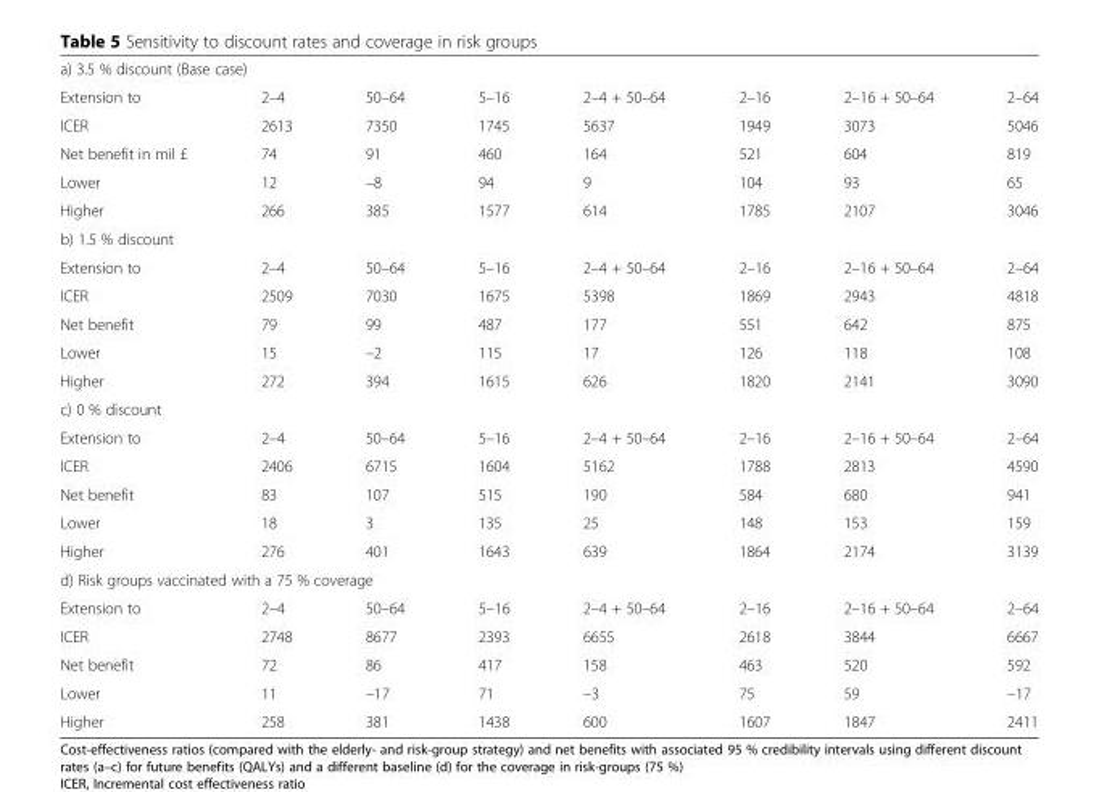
<table><tbody><tr><td colspan="8">a) 3.5 % discount (Base case)</td></tr><tr><td>Extension to</td><td>2–4</td><td>50–64</td><td>5–16</td><td>2–4 + 50–64</td><td>2–16</td><td>2–16 + 50–64</td><td>2–64</td></tr><tr><td>ICER</td><td>2613</td><td>7350</td><td>1745</td><td>5637</td><td>1949</td><td>3073</td><td>5046</td></tr><tr><td>Net benefit in mil £</td><td>74</td><td>91</td><td>460</td><td>164</td><td>521</td><td>604</td><td>819</td></tr><tr><td>Lower</td><td>12</td><td>–8</td><td>94</td><td>9</td><td>104</td><td>93</td><td>65</td></tr><tr><td>Higher</td><td>266</td><td>385</td><td>1577</td><td>614</td><td>1785</td><td>2107</td><td>3046</td></tr><tr><td colspan="8">b) 1.5 % discount</td></tr><tr><td>Extension to</td><td>2–4</td><td>50–64</td><td>5–16</td><td>2–4 + 50–64</td><td>2–16</td><td>2–16 + 50–64</td><td>2–64</td></tr><tr><td>ICER</td><td>2509</td><td>7030</td><td>1675</td><td>5398</td><td>1869</td><td>2943</td><td>4818</td></tr><tr><td>Net benefit</td><td>79</td><td>99</td><td>487</td><td>177</td><td>551</td><td>642</td><td>875</td></tr><tr><td>Lower</td><td>15</td><td>–2</td><td>115</td><td>17</td><td>126</td><td>118</td><td>108</td></tr><tr><td>Higher</td><td>272</td><td>394</td><td>1615</td><td>626</td><td>1820</td><td>2141</td><td>3090</td></tr><tr><td colspan="8">c) 0 % discount</td></tr><tr><td>Extension to</td><td>2–4</td><td>50–64</td><td>5–16</td><td>2–4 + 50–64</td><td>2–16</td><td>2–16 + 50–64</td><td>2–64</td></tr><tr><td>ICER</td><td>2406</td><td>6715</td><td>1604</td><td>5162</td><td>1788</td><td>2813</td><td>4590</td></tr><tr><td>Net benefit</td><td>83</td><td>107</td><td>515</td><td>190</td><td>584</td><td>680</td><td>941</td></tr><tr><td>Lower</td><td>18</td><td>3</td><td>135</td><td>25</td><td>148</td><td>153</td><td>159</td></tr><tr><td>Higher</td><td>276</td><td>401</td><td>1643</td><td>639</td><td>1864</td><td>2174</td><td>3139</td></tr><tr><td colspan="8">d) Risk groups vaccinated with a 75 % coverage</td></tr><tr><td>Extension to</td><td>2–4</td><td>50–64</td><td>5–16</td><td>2–4 + 50–64</td><td>2–16</td><td>2–16 + 50–64</td><td>2–64</td></tr><tr><td>ICER</td><td>2748</td><td>8677</td><td>2393</td><td>6655</td><td>2618</td><td>3844</td><td>6667</td></tr><tr><td>Net benefit</td><td>72</td><td>86</td><td>417</td><td>158</td><td>463</td><td>520</td><td>592</td></tr><tr><td>Lower</td><td>11</td><td>–17</td><td>71</td><td>–3</td><td>75</td><td>59</td><td>–17</td></tr><tr><td>Higher</td><td>258</td><td>381</td><td>1438</td><td>600</td><td>1607</td><td>1847</td><td>2411</td></tr></tbody></table>